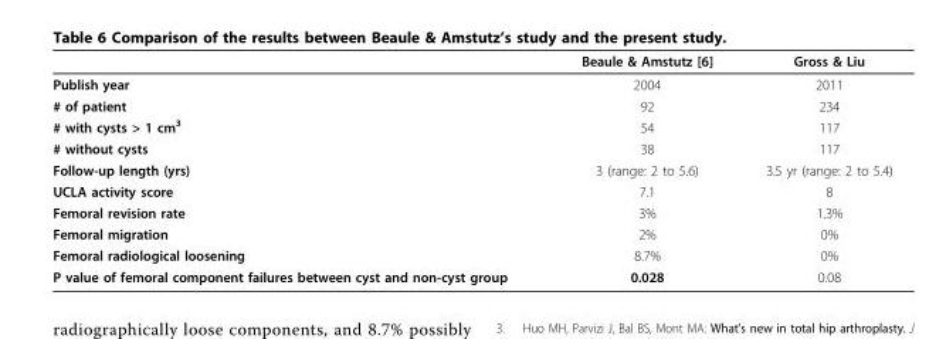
<table><thead><tr><td></td><td>Beaule &amp; Amstutz [6]</td><td>Gross &amp; Liu</td></tr></thead><tbody><tr><td>Publish year</td><td>2004</td><td>2011</td></tr><tr><td># of patient</td><td>92</td><td>234</td></tr><tr><td># with cysts &gt; 1 cm<sup>3</sup></td><td>54</td><td>117</td></tr><tr><td># without cysts</td><td>38</td><td>117</td></tr><tr><td>Follow-up length (yrs)</td><td>3 (range: 2 to 5.6)</td><td>3.5 yr (range: 2 to 5.4)</td></tr><tr><td>UCLA activity score</td><td>7.1</td><td>8</td></tr><tr><td>Femoral revision rate</td><td>3%</td><td>1.3%</td></tr><tr><td>Femoral migration</td><td>2%</td><td>0%</td></tr><tr><td>Femoral radiological loosening</td><td>8.7%</td><td>0%</td></tr><tr><td>P value of femoral component failures between cyst and non-cyst group</td><td>0.028</td><td>0.08</td></tr></tbody></table>